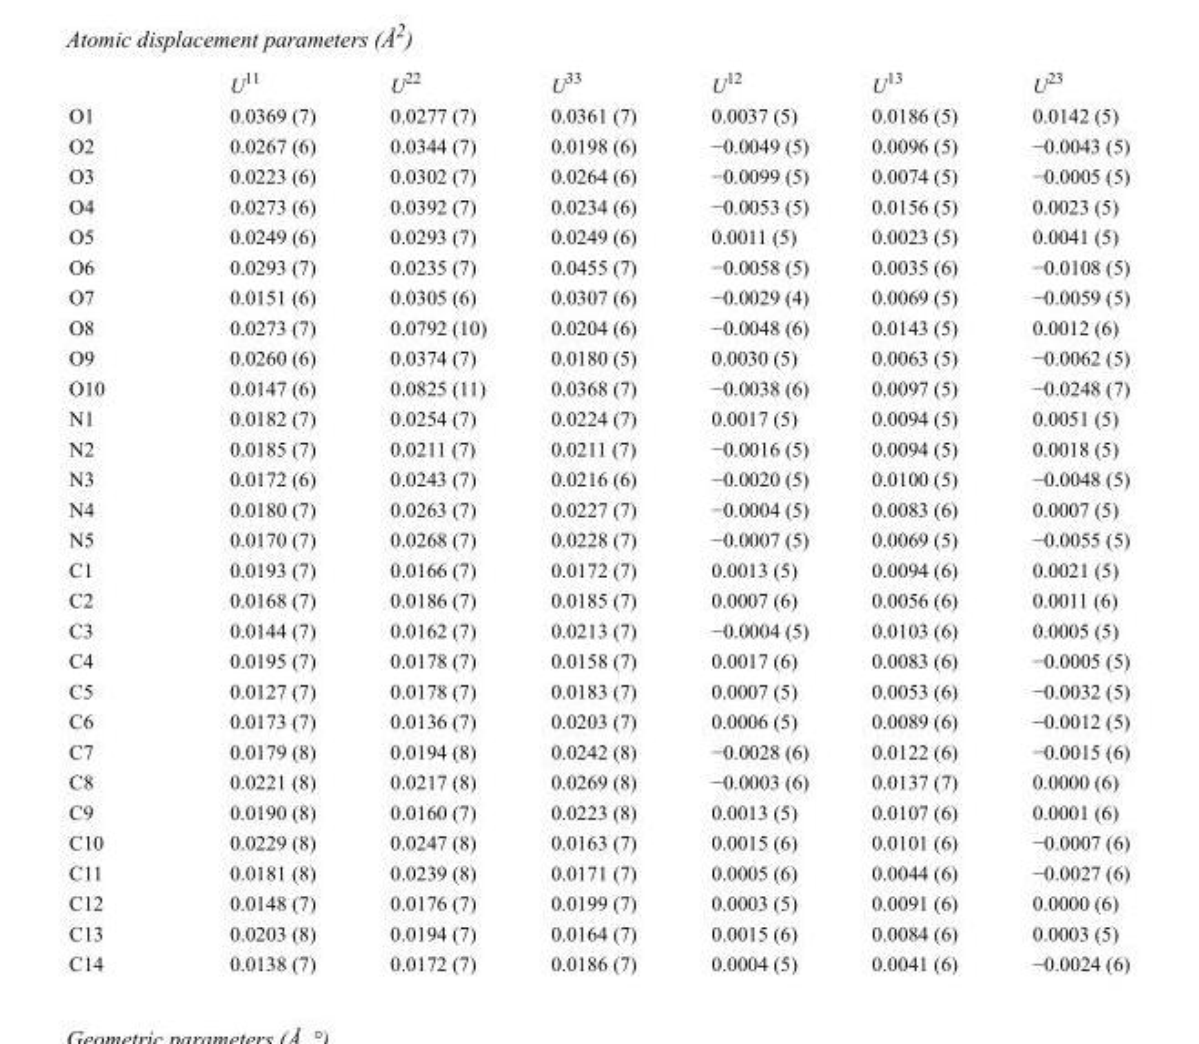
<table><thead><tr><td></td><td>U<sup>11</sup></td><td>U<sup>22</sup></td><td>U<sup>33</sup></td><td>U<sup>12</sup></td><td>U<sup>13</sup></td><td>U<sup>23</sup></td></tr></thead><tbody><tr><td>O1</td><td>0.0369 (7)</td><td>0.0277 (7)</td><td>0.0361 (7)</td><td>0.0037 (5)</td><td>0.0186 (5)</td><td>0.0142 (5)</td></tr><tr><td>O2</td><td>0.0267 (6)</td><td>0.0344 (7)</td><td>0.0198 (6)</td><td>−0.0049 (5)</td><td>0.0096 (5)</td><td>−0.0043 (5)</td></tr><tr><td>O3</td><td>0.0223 (6)</td><td>0.0302 (7)</td><td>0.0264 (6)</td><td>−0.0099 (5)</td><td>0.0074 (5)</td><td>−0.0005 (5)</td></tr><tr><td>O4</td><td>0.0273 (6)</td><td>0.0392 (7)</td><td>0.0234 (6)</td><td>−0.0053 (5)</td><td>0.0156 (5)</td><td>0.0023 (5)</td></tr><tr><td>O5</td><td>0.0249 (6)</td><td>0.0293 (7)</td><td>0.0249 (6)</td><td>0.0011 (5)</td><td>0.0023 (5)</td><td>0.0041 (5)</td></tr><tr><td>O6</td><td>0.0293 (7)</td><td>0.0235 (7)</td><td>0.0455 (7)</td><td>−0.0058 (5)</td><td>0.0035 (6)</td><td>−0.0108 (5)</td></tr><tr><td>O7</td><td>0.0151 (6)</td><td>0.0305 (6)</td><td>0.0307 (6)</td><td>−0.0029 (4)</td><td>0.0069 (5)</td><td>−0.0059 (5)</td></tr><tr><td>O8</td><td>0.0273 (7)</td><td>0.0792 (10)</td><td>0.0204 (6)</td><td>−0.0048 (6)</td><td>0.0143 (5)</td><td>0.0012 (6)</td></tr><tr><td>O9</td><td>0.0260 (6)</td><td>0.0374 (7)</td><td>0.0180 (5)</td><td>0.0030 (5)</td><td>0.0063 (5)</td><td>−0.0062 (5)</td></tr><tr><td>O10</td><td>0.0147 (6)</td><td>0.0825 (11)</td><td>0.0368 (7)</td><td>−0.0038 (6)</td><td>0.0097 (5)</td><td>−0.0248 (7)</td></tr><tr><td>N1</td><td>0.0182 (7)</td><td>0.0254 (7)</td><td>0.0224 (7)</td><td>0.0017 (5)</td><td>0.0094 (5)</td><td>0.0051 (5)</td></tr><tr><td>N2</td><td>0.0185 (7)</td><td>0.0211 (7)</td><td>0.0211 (7)</td><td>−0.0016 (5)</td><td>0.0094 (5)</td><td>0.0018 (5)</td></tr><tr><td>N3</td><td>0.0172 (6)</td><td>0.0243 (7)</td><td>0.0216 (6)</td><td>−0.0020 (5)</td><td>0.0100 (5)</td><td>−0.0048 (5)</td></tr><tr><td>N4</td><td>0.0180 (7)</td><td>0.0263 (7)</td><td>0.0227 (7)</td><td>−0.0004 (5)</td><td>0.0083 (6)</td><td>0.0007 (5)</td></tr><tr><td>N5</td><td>0.0170 (7)</td><td>0.0268 (7)</td><td>0.0228 (7)</td><td>−0.0007 (5)</td><td>0.0069 (5)</td><td>−0.0055 (5)</td></tr><tr><td>C1</td><td>0.0193 (7)</td><td>0.0166 (7)</td><td>0.0172 (7)</td><td>0.0013 (5)</td><td>0.0094 (6)</td><td>0.0021 (5)</td></tr><tr><td>C2</td><td>0.0168 (7)</td><td>0.0186 (7)</td><td>0.0185 (7)</td><td>0.0007 (6)</td><td>0.0056 (6)</td><td>0.0011 (6)</td></tr><tr><td>C3</td><td>0.0144 (7)</td><td>0.0162 (7)</td><td>0.0213 (7)</td><td>−0.0004 (5)</td><td>0.0103 (6)</td><td>0.0005 (5)</td></tr><tr><td>C4</td><td>0.0195 (7)</td><td>0.0178 (7)</td><td>0.0158 (7)</td><td>0.0017 (6)</td><td>0.0083 (6)</td><td>−0.0005 (5)</td></tr><tr><td>C5</td><td>0.0127 (7)</td><td>0.0178 (7)</td><td>0.0183 (7)</td><td>0.0007 (5)</td><td>0.0053 (6)</td><td>−0.0032 (5)</td></tr><tr><td>C6</td><td>0.0173 (7)</td><td>0.0136 (7)</td><td>0.0203 (7)</td><td>0.0006 (5)</td><td>0.0089 (6)</td><td>−0.0012 (5)</td></tr><tr><td>C7</td><td>0.0179 (8)</td><td>0.0194 (8)</td><td>0.0242 (8)</td><td>−0.0028 (6)</td><td>0.0122 (6)</td><td>−0.0015 (6)</td></tr><tr><td>C8</td><td>0.0221 (8)</td><td>0.0217 (8)</td><td>0.0269 (8)</td><td>−0.0003 (6)</td><td>0.0137 (7)</td><td>0.0000 (6)</td></tr><tr><td>C9</td><td>0.0190 (8)</td><td>0.0160 (7)</td><td>0.0223 (8)</td><td>0.0013 (5)</td><td>0.0107 (6)</td><td>0.0001 (6)</td></tr><tr><td>C10</td><td>0.0229 (8)</td><td>0.0247 (8)</td><td>0.0163 (7)</td><td>0.0015 (6)</td><td>0.0101 (6)</td><td>−0.0007 (6)</td></tr><tr><td>C11</td><td>0.0181 (8)</td><td>0.0239 (8)</td><td>0.0171 (7)</td><td>0.0005 (6)</td><td>0.0044 (6)</td><td>−0.0027 (6)</td></tr><tr><td>C12</td><td>0.0148 (7)</td><td>0.0176 (7)</td><td>0.0199 (7)</td><td>0.0003 (5)</td><td>0.0091 (6)</td><td>0.0000 (6)</td></tr><tr><td>C13</td><td>0.0203 (8)</td><td>0.0194 (7)</td><td>0.0164 (7)</td><td>0.0015 (6)</td><td>0.0084 (6)</td><td>0.0003 (5)</td></tr><tr><td>C14</td><td>0.0138 (7)</td><td>0.0172 (7)</td><td>0.0186 (7)</td><td>0.0004 (5)</td><td>0.0041 (6)</td><td>−0.0024 (6)</td></tr></tbody></table>